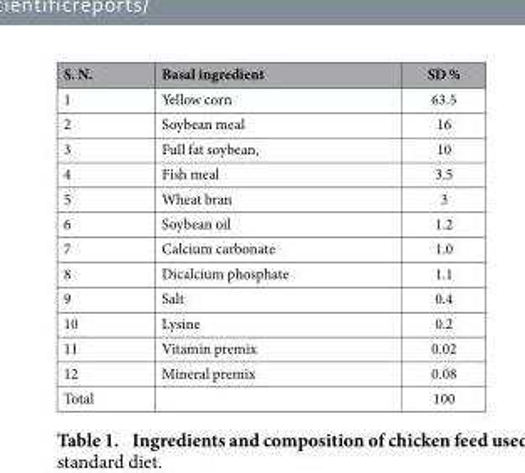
<table><thead><tr><td>S. N.</td><td>Basal ingredient</td><td>SD %</td></tr></thead><tbody><tr><td>1</td><td>Yellow corn</td><td>63.5</td></tr><tr><td>2</td><td>Soybean meal</td><td>16</td></tr><tr><td>3</td><td>Full fat soybean,</td><td>10</td></tr><tr><td>4</td><td>Fish meal</td><td>3.5</td></tr><tr><td>5</td><td>Wheat bran</td><td>3</td></tr><tr><td>6</td><td>Soybean oil</td><td>1.2</td></tr><tr><td>7</td><td>Calcium carbonate</td><td>1.0</td></tr><tr><td>8</td><td>Dicalcium phosphate</td><td>1.1</td></tr><tr><td>9</td><td>Salt</td><td>0.4</td></tr><tr><td>10</td><td>Lysine</td><td>0.2</td></tr><tr><td>11</td><td>Vitamin premix</td><td>0.02</td></tr><tr><td>12</td><td>Mineral premix</td><td>0.08</td></tr><tr><td>Total</td><td></td><td>100</td></tr></tbody></table>